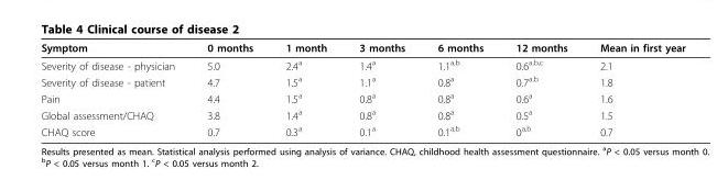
<table><thead><tr><td>Symptom</td><td>0 months</td><td>1 month</td><td>3 months</td><td>6 months</td><td>12 months</td><td>Mean in first year</td></tr></thead><tbody><tr><td>Severity of disease - physician</td><td>5.0</td><td>2.4<sup>a</sup></td><td>1.4<sup>a</sup></td><td>1.1<sup>a,b</sup></td><td>0.6<sup>a,b,c</sup></td><td>2.1</td></tr><tr><td>Severity of disease - patient</td><td>4.7</td><td>1.5<sup>a</sup></td><td>1.1<sup>a</sup></td><td>0.8<sup>a</sup></td><td>0.7<sup>a,b</sup></td><td>1.8</td></tr><tr><td>Pain</td><td>4.4</td><td>1.5<sup>a</sup></td><td>0.8<sup>a</sup></td><td>0.8<sup>a</sup></td><td>0.6<sup>a</sup></td><td>1.6</td></tr><tr><td>Global assessment/CHAQ</td><td>3.8</td><td>1.4<sup>a</sup></td><td>0.8<sup>a</sup></td><td>0.8<sup>a</sup></td><td>0.5<sup>a</sup></td><td>1.5</td></tr><tr><td>CHAQ score</td><td>0.7</td><td>0.3<sup>a</sup></td><td>0.1<sup>a</sup></td><td>0.1<sup>a,b</sup></td><td>0<sup>a,b</sup></td><td>0.7</td></tr></tbody></table>